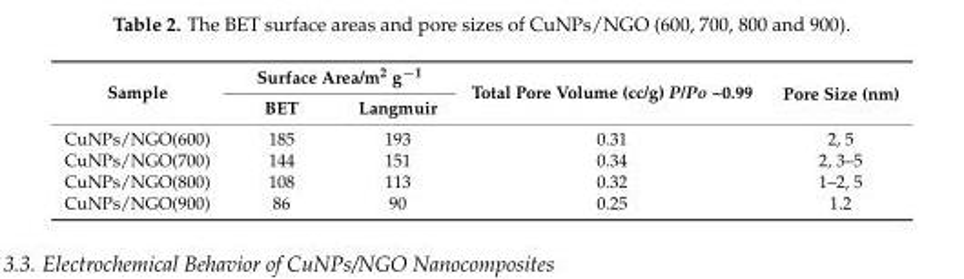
<table><thead><tr><td rowspan="2">Sample</td><td colspan="2">Surface Area/m<sup>2</sup> g<sup>−1</sup></td><td rowspan="2">Total Pore Volume (cc/g) P/Po ~0.99</td><td rowspan="2">Pore Size (nm)</td></tr><tr><td>BET</td><td>Langmuir</td></tr></thead><tbody><tr><td>CuNPs/NGO(600)</td><td>185</td><td>193</td><td>0.31</td><td>2, 5</td></tr><tr><td>CuNPs/NGO(700)</td><td>144</td><td>151</td><td>0.34</td><td>2, 3–5</td></tr><tr><td>CuNPs/NGO(800)</td><td>108</td><td>113</td><td>0.32</td><td>1–2, 5</td></tr><tr><td>CuNPs/NGO(900)</td><td>86</td><td>90</td><td>0.25</td><td>1.2</td></tr></tbody></table>